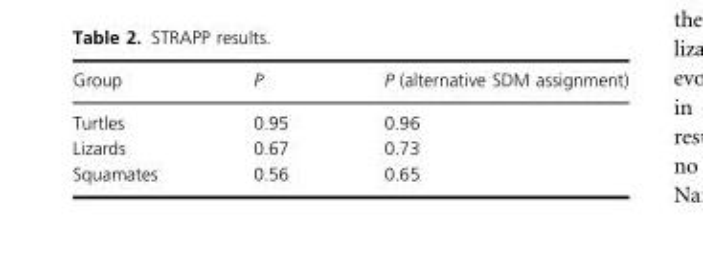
<table><thead><tr><td>Group</td><td>P</td><td>P (alternative SDM assignment)</td></tr></thead><tbody><tr><td>Turtles</td><td>0.95</td><td>0.96</td></tr><tr><td>Lizards</td><td>0.67</td><td>0.73</td></tr><tr><td>Squamates</td><td>0.56</td><td>0.65</td></tr></tbody></table>